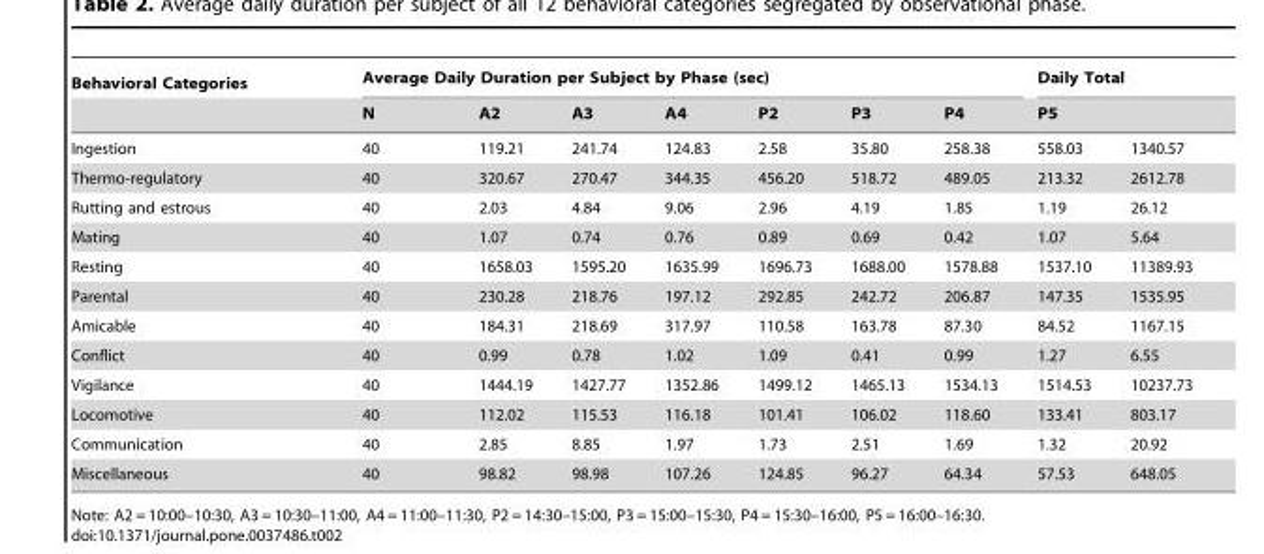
<table><thead><tr><td rowspan="2">Behavioral Categories</td><td colspan="7">Average Daily Duration per Subject by Phase (sec)</td><td colspan="2">Daily Total</td></tr><tr><td>N</td><td>A2</td><td>A3</td><td>A4</td><td>P2</td><td>P3</td><td>P4</td><td>P5</td><td></td></tr></thead><tbody><tr><td>Ingestion</td><td>40</td><td>119.21</td><td>241.74</td><td>124.83</td><td>2.58</td><td>35.80</td><td>258.38</td><td>558.03</td><td>1340.57</td></tr><tr><td>Thermo-regulatory</td><td>40</td><td>320.67</td><td>270.47</td><td>344.35</td><td>456.20</td><td>518.72</td><td>489.05</td><td>213.32</td><td>2612.78</td></tr><tr><td>Rutting and estrous</td><td>40</td><td>2.03</td><td>4.84</td><td>9.06</td><td>2.96</td><td>4.19</td><td>1.85</td><td>1.19</td><td>26.12</td></tr><tr><td>Mating</td><td>40</td><td>1.07</td><td>0.74</td><td>0.76</td><td>0.89</td><td>0.69</td><td>0.42</td><td>1.07</td><td>5.64</td></tr><tr><td>Resting</td><td>40</td><td>1658.03</td><td>1595.20</td><td>1635.99</td><td>1696.73</td><td>1688.00</td><td>1578.88</td><td>1537.10</td><td>11389.93</td></tr><tr><td>Parental</td><td>40</td><td>230.28</td><td>218.76</td><td>197.12</td><td>292.85</td><td>242.72</td><td>206.87</td><td>147.35</td><td>1535.95</td></tr><tr><td>Amicable</td><td>40</td><td>184.31</td><td>218.69</td><td>317.97</td><td>110.58</td><td>163.78</td><td>87.30</td><td>84.52</td><td>1167.15</td></tr><tr><td>Conflict</td><td>40</td><td>0.99</td><td>0.78</td><td>1.02</td><td>1.09</td><td>0.41</td><td>0.99</td><td>1.27</td><td>6.55</td></tr><tr><td>Vigilance</td><td>40</td><td>1444.19</td><td>1427.77</td><td>1352.86</td><td>1499.12</td><td>1465.13</td><td>1534.13</td><td>1514.53</td><td>10237.73</td></tr><tr><td>Locomotive</td><td>40</td><td>112.02</td><td>115.53</td><td>116.18</td><td>101.41</td><td>106.02</td><td>118.60</td><td>133.41</td><td>803.17</td></tr><tr><td>Communication</td><td>40</td><td>2.85</td><td>8.85</td><td>1.97</td><td>1.73</td><td>2.51</td><td>1.69</td><td>1.32</td><td>20.92</td></tr><tr><td>Miscellaneous</td><td>40</td><td>98.82</td><td>98.98</td><td>107.26</td><td>124.85</td><td>96.27</td><td>64.34</td><td>57.53</td><td>648.05</td></tr></tbody></table>